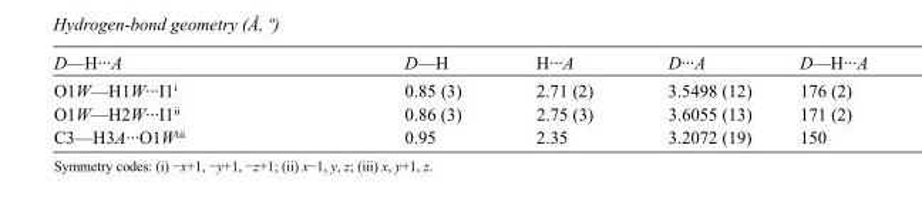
<table><tbody><tr><td>D—H···A</td><td>D—H</td><td>H···A</td><td>D···A</td><td>D—H···A</td></tr><tr><td>O1W—H1W···I1<sup>i</sup></td><td>0.85 (3)</td><td>2.71 (2)</td><td>3.5498 (12)</td><td>176 (2)</td></tr><tr><td>O1W—H2W···I1<sup>ii</sup></td><td>0.86 (3)</td><td>2.75 (3)</td><td>3.6055 (13)</td><td>171 (2)</td></tr><tr><td>C3—H3A···O1W<sup>iii</sup></td><td>0.95</td><td>2.35</td><td>3.2072 (19)</td><td>150</td></tr></tbody></table>